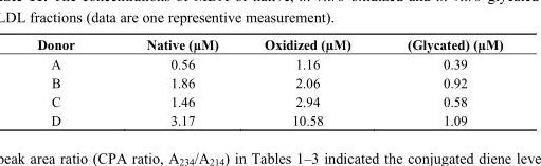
<table><thead><tr><td>Donor</td><td>Native (µM)</td><td>Oxidized (µM)</td><td>(Glycated) (µM)</td></tr></thead><tbody><tr><td>A</td><td>0.56</td><td>1.16</td><td>0.39</td></tr><tr><td>B</td><td>1.86</td><td>2.06</td><td>0.92</td></tr><tr><td>C</td><td>1.46</td><td>2.94</td><td>0.58</td></tr><tr><td>D</td><td>3.17</td><td>10.58</td><td>1.09</td></tr></tbody></table>